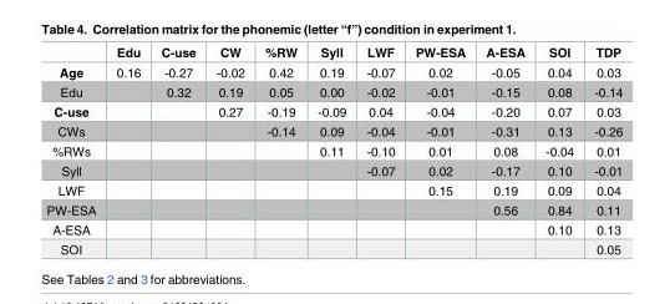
<table><thead><tr><td></td><td>Edu</td><td>C-use</td><td>CW</td><td>%RW</td><td>Syll</td><td>LWF</td><td>PW-ESA</td><td>A-ESA</td><td>SOI</td><td>TDP</td></tr></thead><tbody><tr><td>Age</td><td>0.16</td><td>-0.27</td><td>-0.02</td><td>0.42</td><td>0.19</td><td>-0.07</td><td>0.02</td><td>-0.05</td><td>0.04</td><td>0.03</td></tr><tr><td>Edu</td><td></td><td>0.32</td><td>0.19</td><td>0.05</td><td>0.00</td><td>-0.02</td><td>-0.01</td><td>-0.15</td><td>0.08</td><td>-0.14</td></tr><tr><td>C-use</td><td></td><td></td><td>0.27</td><td>-0.19</td><td>-0.09</td><td>0.04</td><td>-0.04</td><td>-0.20</td><td>0.07</td><td>0.03</td></tr><tr><td>CWs</td><td></td><td></td><td></td><td>-0.14</td><td>0.09</td><td>-0.04</td><td>-0.01</td><td>-0.31</td><td>0.13</td><td>-0.26</td></tr><tr><td>%RWs</td><td></td><td></td><td></td><td></td><td>0.11</td><td>-0.10</td><td>0.01</td><td>0.08</td><td>-0.04</td><td>0.01</td></tr><tr><td>Syll</td><td></td><td></td><td></td><td></td><td></td><td>-0.07</td><td>0.02</td><td>-0.17</td><td>0.10</td><td>-0.01</td></tr><tr><td>LWF</td><td></td><td></td><td></td><td></td><td></td><td></td><td>0.15</td><td>0.19</td><td>0.09</td><td>0.04</td></tr><tr><td>PW-ESA</td><td></td><td></td><td></td><td></td><td></td><td></td><td></td><td>0.56</td><td>0.84</td><td>0.11</td></tr><tr><td>A-ESA</td><td></td><td></td><td></td><td></td><td></td><td></td><td></td><td></td><td>0.10</td><td>0.13</td></tr><tr><td>SOI</td><td></td><td></td><td></td><td></td><td></td><td></td><td></td><td></td><td></td><td>0.05</td></tr></tbody></table>